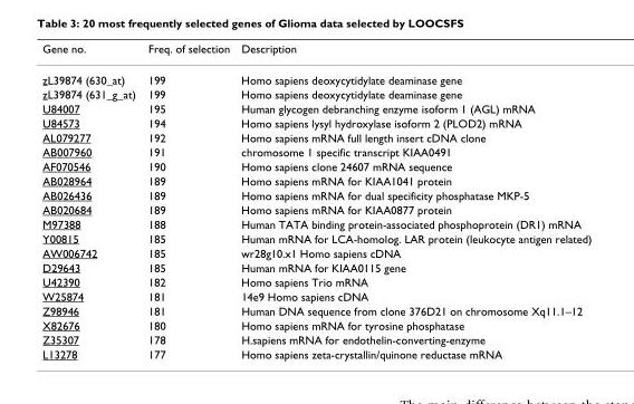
<table><thead><tr><td>Gene no.</td><td>Freq. of selection</td><td>Description</td></tr></thead><tbody><tr><td>zL39874 (630_at)</td><td>199</td><td>Homo sapiens deoxycytidylate deaminase gene</td></tr><tr><td>zL39874 (631_g_at)</td><td>199</td><td>Homo sapiens deoxycytidylate deaminase gene</td></tr><tr><td>U84007</td><td>195</td><td>Human glycogen debranching enzyme isoform 1 (AGL) mRNA</td></tr><tr><td>U84573</td><td>194</td><td>Homo sapiens lysyl hydroxylase isoform 2 (PLOD2) mRNA</td></tr><tr><td>AL079277</td><td>192</td><td>Homo sapiens mRNA full length insert cDNA clone</td></tr><tr><td>AB007960</td><td>191</td><td>chromosome 1 specific transcript KIAA0491</td></tr><tr><td>AF070546</td><td>190</td><td>Homo sapiens clone 24607 mRNA sequence</td></tr><tr><td>AB028964</td><td>189</td><td>Homo sapiens mRNA for KIAA1041 protein</td></tr><tr><td>AB026436</td><td>189</td><td>Homo sapiens mRNA for dual specificity phosphatase MKP-5</td></tr><tr><td>AB020684</td><td>189</td><td>Homo sapiens mRNA for KIAA0877 protein</td></tr><tr><td>M97388</td><td>188</td><td>Human TATA binding protein-associated phosphoprotein (DR1) mRNA</td></tr><tr><td>Y00815</td><td>185</td><td>Human mRNA for LCA-homolog. LAR protein (leukocyte antigen related)</td></tr><tr><td>AW006742</td><td>185</td><td>wr28g10.x1 Homo sapiens cDNA</td></tr><tr><td>D29643</td><td>185</td><td>Human mRNA for KIAA0115 gene</td></tr><tr><td>U42390</td><td>182</td><td>Homo sapiens Trio mRNA</td></tr><tr><td>W25874</td><td>181</td><td>14e9 Homo sapiens cDNA</td></tr><tr><td>Z98946</td><td>181</td><td>Human DNA sequence from clone 376D21 on chromosome Xq11.1–12</td></tr><tr><td>X82676</td><td>180</td><td>Homo sapiens mRNA for tyrosine phosphatase</td></tr><tr><td>Z35307</td><td>178</td><td>H.sapiens mRNA for endothelin-converting-enzyme</td></tr><tr><td>L13278</td><td>177</td><td>Homo sapiens zeta-crystallin/quinone reductase mRNA</td></tr></tbody></table>